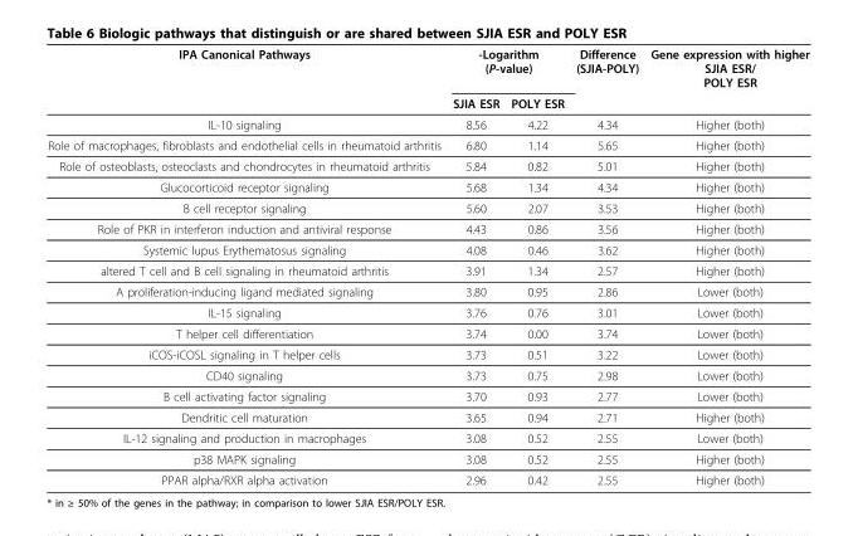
<table><thead><tr><td rowspan="2">IPA Canonical Pathways</td><td colspan="2">-Logarithm (P-value)</td><td rowspan="2">Difference (SJIA-POLY)</td><td rowspan="2">Gene expression with higher SJIA ESR/ POLY ESR</td></tr><tr><td>SJIA ESR</td><td>POLY ESR</td></tr></thead><tbody><tr><td>IL-10 signaling</td><td>8.56</td><td>4.22</td><td>4.34</td><td>Higher (both)</td></tr><tr><td>Role of macrophages, fibroblasts and endothelial cells in rheumatoid arthritis</td><td>6.80</td><td>1.14</td><td>5.65</td><td>Higher (both)</td></tr><tr><td>Role of osteoblasts, osteoclasts and chondrocytes in rheumatoid arthritis</td><td>5.84</td><td>0.82</td><td>5.01</td><td>Higher (both)</td></tr><tr><td>Glucocorticoid receptor signaling</td><td>5.68</td><td>1.34</td><td>4.34</td><td>Higher (both)</td></tr><tr><td>B cell receptor signaling</td><td>5.60</td><td>2.07</td><td>3.53</td><td>Higher (both)</td></tr><tr><td>Role of PKR in interferon induction and antiviral response</td><td>4.43</td><td>0.86</td><td>3.56</td><td>Higher (both)</td></tr><tr><td>Systemic lupus Erythematosus signaling</td><td>4.08</td><td>0.46</td><td>3.62</td><td>Higher (both)</td></tr><tr><td>altered T cell and B cell signaling in rheumatoid arthritis</td><td>3.91</td><td>1.34</td><td>2.57</td><td>Higher (both)</td></tr><tr><td>A proliferation-inducing ligand mediated signaling</td><td>3.80</td><td>0.95</td><td>2.86</td><td>Lower (both)</td></tr><tr><td>IL-15 signaling</td><td>3.76</td><td>0.76</td><td>3.01</td><td>Lower (both)</td></tr><tr><td>T helper cell differentiation</td><td>3.74</td><td>0.00</td><td>3.74</td><td>Lower (both)</td></tr><tr><td>iCOS-iCOSL signaling in T helper cells</td><td>3.73</td><td>0.51</td><td>3.22</td><td>Lower (both)</td></tr><tr><td>CD40 signaling</td><td>3.73</td><td>0.75</td><td>2.98</td><td>Lower (both)</td></tr><tr><td>B cell activating factor signaling</td><td>3.70</td><td>0.93</td><td>2.77</td><td>Lower (both)</td></tr><tr><td>Dendritic cell maturation</td><td>3.65</td><td>0.94</td><td>2.71</td><td>Higher (both)</td></tr><tr><td>IL-12 signaling and production in macrophages</td><td>3.08</td><td>0.52</td><td>2.55</td><td>Lower (both)</td></tr><tr><td>p38 MAPK signaling</td><td>3.08</td><td>0.52</td><td>2.55</td><td>Higher (both)</td></tr><tr><td>PPAR alpha/RXR alpha activation</td><td>2.96</td><td>0.42</td><td>2.55</td><td>Higher (both)</td></tr></tbody></table>